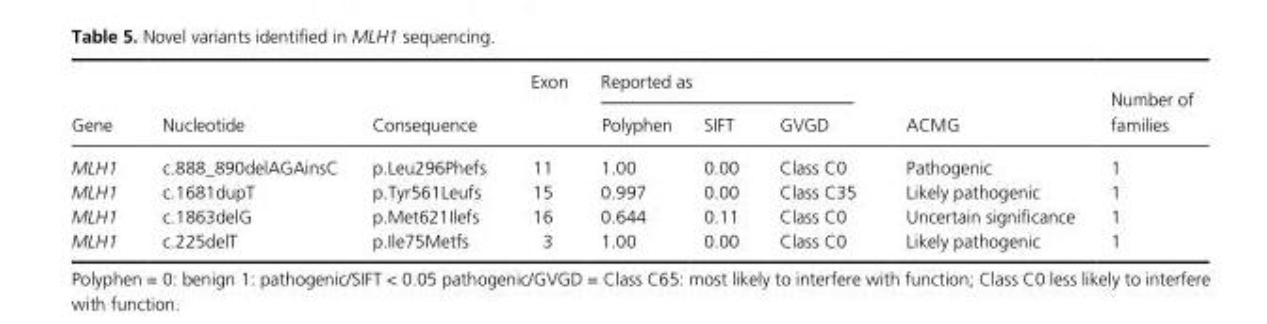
<table><thead><tr><td rowspan="2">Gene</td><td rowspan="2">Nucleotide</td><td rowspan="2">Consequence</td><td rowspan="2">Exon</td><td colspan="3">Reported as</td><td rowspan="2">ACMG</td><td rowspan="2">Number of families</td></tr><tr><td>Polyphen</td><td>SIFT</td><td>GVGD</td></tr></thead><tbody><tr><td>MLH1</td><td>c.888_890delAGAinsC</td><td>p.Leu296Phefs</td><td>11</td><td>1.00</td><td>0.00</td><td>Class C0</td><td>Pathogenic</td><td>1</td></tr><tr><td>MLH1</td><td>c.1681dupT</td><td>p.Tyr561Leufs</td><td>15</td><td>0.997</td><td>0.00</td><td>Class C35</td><td>Likely pathogenic</td><td>1</td></tr><tr><td>MLH1</td><td>c.1863delG</td><td>p.Met621Ilefs</td><td>16</td><td>0.644</td><td>0.11</td><td>Class C0</td><td>Uncertain significance</td><td>1</td></tr><tr><td>MLH1</td><td>c.225delT</td><td>p.Ile75Metfs</td><td>3</td><td>1.00</td><td>0.00</td><td>Class C0</td><td>Likely pathogenic</td><td>1</td></tr></tbody></table>